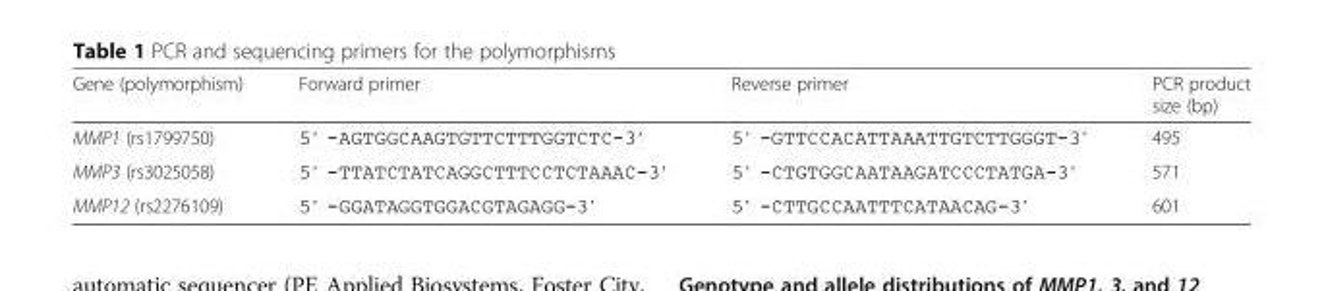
<table><thead><tr><td>Gene (polymorphism)</td><td>Forward primer</td><td>Reverse primer</td><td>PCR product size (bp)</td></tr></thead><tbody><tr><td>MMP1 (rs1799750)</td><td>5’-AGTGGCAAGTGTTCTTTGGTCTC-3’</td><td>5’-GTTCCACATTAAATTGTCTTGGGT-3’</td><td>495</td></tr><tr><td>MMP3 (rs3025058)</td><td>5’-TTATCTATCAGGCTTTCCTCTAAAC-3’</td><td>5’-CTGTGGCAATAAGATCCCTATGA-3’</td><td>571</td></tr><tr><td>MMP12 (rs2276109)</td><td>5’-GGATAGGTGGACGTAGAGG-3’</td><td>5’-CTTGCCAATTTCATAACAG-3’</td><td>601</td></tr></tbody></table>